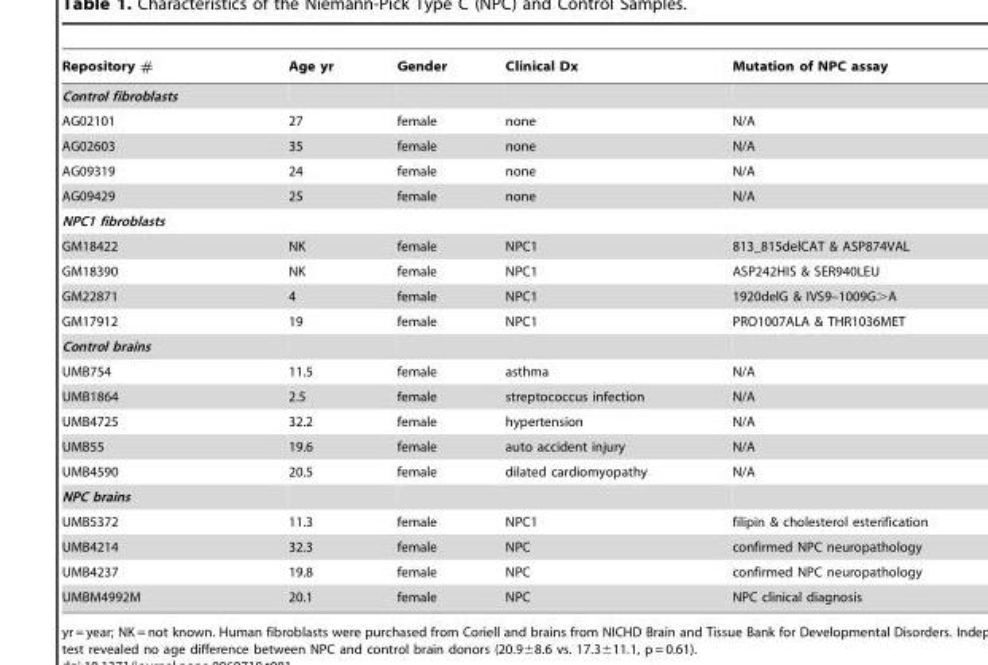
<table><thead><tr><td>Repository #</td><td>Age yr</td><td>Gender</td><td>Clinical Dx</td><td>Mutation of NPC assay</td></tr></thead><tbody><tr><td colspan="5">Control fibroblasts</td></tr><tr><td>AG02101</td><td>27</td><td>female</td><td>none</td><td>N/A</td></tr><tr><td>AG02603</td><td>35</td><td>female</td><td>none</td><td>N/A</td></tr><tr><td>AG09319</td><td>24</td><td>female</td><td>none</td><td>N/A</td></tr><tr><td>AG09429</td><td>25</td><td>female</td><td>none</td><td>N/A</td></tr><tr><td colspan="5">NPC1 fibroblasts</td></tr><tr><td>GM18422</td><td>NK</td><td>female</td><td>NPC1</td><td>813_815delCAT &amp; ASP874VAL</td></tr><tr><td>GM18390</td><td>NK</td><td>female</td><td>NPC1</td><td>ASP242HIS &amp; SER940LEU</td></tr><tr><td>GM22871</td><td>4</td><td>female</td><td>NPC1</td><td>1920delG &amp; IVS9–1009G&gt;A</td></tr><tr><td>GM17912</td><td>19</td><td>female</td><td>NPC1</td><td>PRO1007ALA &amp; THR1036MET</td></tr><tr><td colspan="5">Control brains</td></tr><tr><td>UMB754</td><td>11.5</td><td>female</td><td>asthma</td><td>N/A</td></tr><tr><td>UMB1864</td><td>2.5</td><td>female</td><td>streptococcus infection</td><td>N/A</td></tr><tr><td>UMB4725</td><td>32.2</td><td>female</td><td>hypertension</td><td>N/A</td></tr><tr><td>UMB55</td><td>19.6</td><td>female</td><td>auto accident injury</td><td>N/A</td></tr><tr><td>UMB4590</td><td>20.5</td><td>female</td><td>dilated cardiomyopathy</td><td>N/A</td></tr><tr><td colspan="5">NPC brains</td></tr><tr><td>UMB5372</td><td>11.3</td><td>female</td><td>NPC1</td><td>filipin &amp; cholesterol esterification</td></tr><tr><td>UMB4214</td><td>32.3</td><td>female</td><td>NPC</td><td>confirmed NPC neuropathology</td></tr><tr><td>UMB4237</td><td>19.8</td><td>female</td><td>NPC</td><td>confirmed NPC neuropathology</td></tr><tr><td>UMBM4992M</td><td>20.1</td><td>female</td><td>NPC</td><td>NPC clinical diagnosis</td></tr></tbody></table>